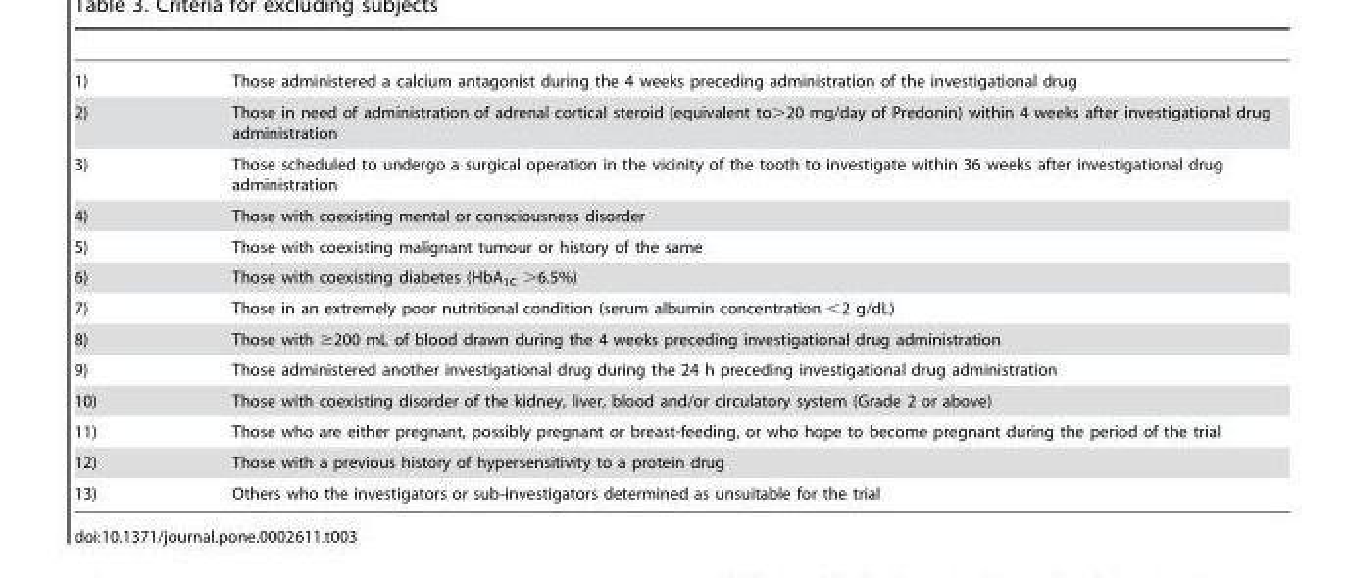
<table><tbody><tr><td>1)</td><td>Those administered a calcium antagonist during the 4 weeks preceding administration of the investigational drug</td></tr><tr><td>2)</td><td>Those in need of administration of adrenal cortical steroid (equivalent to&gt;20 mg/day of Predonin) within 4 weeks after investigational drug administration</td></tr><tr><td>3)</td><td>Those scheduled to undergo a surgical operation in the vicinity of the tooth to investigate within 36 weeks after investigational drug administration</td></tr><tr><td>4)</td><td>Those with coexisting mental or consciousness disorder</td></tr><tr><td>5)</td><td>Those with coexisting malignant tumour or history of the same</td></tr><tr><td>6)</td><td>Those with coexisting diabetes (HbA<sub>1C</sub> &gt;6.5%)</td></tr><tr><td>7)</td><td>Those in an extremely poor nutritional condition (serum albumin concentration &lt;2 g/dL)</td></tr><tr><td>8)</td><td>Those with ≥200 mL of blood drawn during the 4 weeks preceding investigational drug administration</td></tr><tr><td>9)</td><td>Those administered another investigational drug during the 24 h preceding investigational drug administration</td></tr><tr><td>10)</td><td>Those with coexisting disorder of the kidney, liver, blood and/or circulatory system (Grade 2 or above)</td></tr><tr><td>11)</td><td>Those who are either pregnant, possibly pregnant or breast-feeding, or who hope to become pregnant during the period of the trial</td></tr><tr><td>12)</td><td>Those with a previous history of hypersensitivity to a protein drug</td></tr><tr><td>13)</td><td>Others who the investigators or sub-investigators determined as unsuitable for the trial</td></tr></tbody></table>